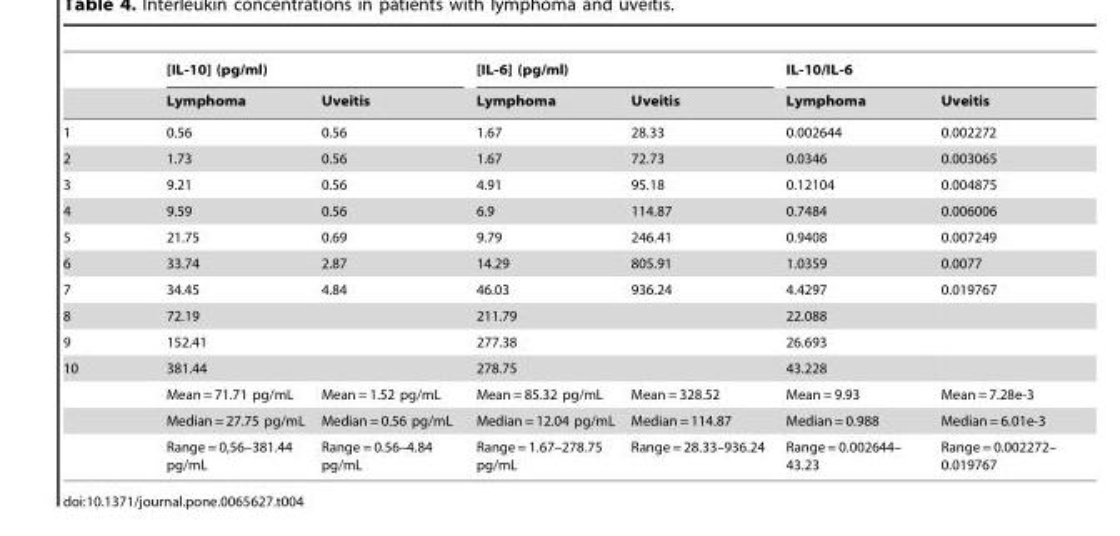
<table><thead><tr><td rowspan="2"></td><td colspan="2">[IL-10] (pg/ml)</td><td colspan="2">[IL-6] (pg/ml)</td><td colspan="2">IL-10/IL-6</td></tr><tr><td>Lymphoma</td><td>Uveitis</td><td>Lymphoma</td><td>Uveitis</td><td>Lymphoma</td><td>Uveitis</td></tr></thead><tbody><tr><td>1</td><td>0.56</td><td>0.56</td><td>1.67</td><td>28.33</td><td>0.002644</td><td>0.002272</td></tr><tr><td>2</td><td>1.73</td><td>0.56</td><td>1.67</td><td>72.73</td><td>0.0346</td><td>0.003065</td></tr><tr><td>3</td><td>9.21</td><td>0.56</td><td>4.91</td><td>95.18</td><td>0.12104</td><td>0.004875</td></tr><tr><td>4</td><td>9.59</td><td>0.56</td><td>6.9</td><td>114.87</td><td>0.7484</td><td>0.006006</td></tr><tr><td>5</td><td>21.75</td><td>0.69</td><td>9.79</td><td>246.41</td><td>0.9408</td><td>0.007249</td></tr><tr><td>6</td><td>33.74</td><td>2.87</td><td>14.29</td><td>805.91</td><td>1.0359</td><td>0.0077</td></tr><tr><td>7</td><td>34.45</td><td>4.84</td><td>46.03</td><td>936.24</td><td>4.4297</td><td>0.019767</td></tr><tr><td>8</td><td>72.19</td><td></td><td>211.79</td><td></td><td>22.088</td><td></td></tr><tr><td>9</td><td>152.41</td><td></td><td>277.38</td><td></td><td>26.693</td><td></td></tr><tr><td rowspan="4">10</td><td>381.44</td><td></td><td>278.75</td><td></td><td>43.228</td><td></td></tr><tr><td>Mean = 71.71 pg/mL</td><td>Mean = 1.52 pg/mL</td><td>Mean = 85.32 pg/mL</td><td>Mean = 328.52</td><td>Mean = 9.93</td><td>Mean = 7.28e-3</td></tr><tr><td>Median = 27.75 pg/mL</td><td>Median = 0.56 pg/mL</td><td>Median = 12.04 pg/mL</td><td>Median = 114.87</td><td>Median = 0.988</td><td>Median = 6.01e-3</td></tr><tr><td>Range = 0,56–381.44 pg/mL</td><td>Range = 0.56–4.84 pg/mL</td><td>Range = 1.67–278.75 pg/mL</td><td>Range = 28.33–936.24</td><td>Range = 0.002644– 43.23</td><td>Range = 0.002272– 0.019767</td></tr></tbody></table>